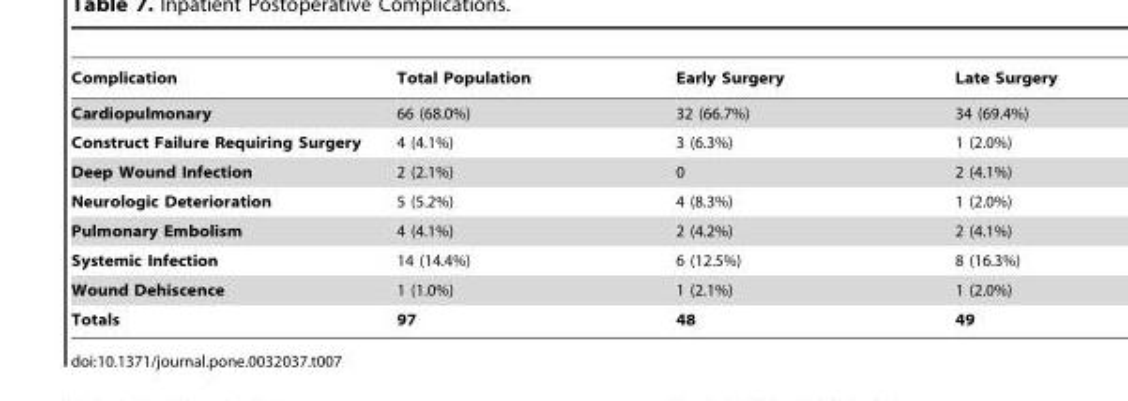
<table><thead><tr><td>Complication</td><td>Total Population</td><td>Early Surgery</td><td>Late Surgery</td></tr></thead><tbody><tr><td>Cardiopulmonary</td><td>66 (68.0%)</td><td>32 (66.7%)</td><td>34 (69.4%)</td></tr><tr><td>Construct Failure Requiring Surgery</td><td>4 (4.1%)</td><td>3 (6.3%)</td><td>1 (2.0%)</td></tr><tr><td>Deep Wound Infection</td><td>2 (2.1%)</td><td>0</td><td>2 (4.1%)</td></tr><tr><td>Neurologic Deterioration</td><td>5 (5.2%)</td><td>4 (8.3%)</td><td>1 (2.0%)</td></tr><tr><td>Pulmonary Embolism</td><td>4 (4.1%)</td><td>2 (4.2%)</td><td>2 (4.1%)</td></tr><tr><td>Systemic Infection</td><td>14 (14.4%)</td><td>6 (12.5%)</td><td>8 (16.3%)</td></tr><tr><td>Wound Dehiscence</td><td>1 (1.0%)</td><td>1 (2.1%)</td><td>1 (2.0%)</td></tr><tr><td>Totals</td><td>97</td><td>48</td><td>49</td></tr></tbody></table>